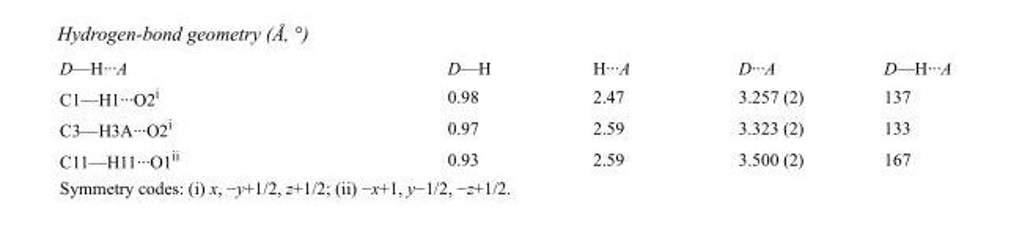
<table><tbody><tr><td>D—H···A</td><td>D—H</td><td>H···A</td><td>D···A</td><td>D—H···A</td></tr><tr><td>C1—H1···O2<sup>i</sup></td><td>0.98</td><td>2.47</td><td>3.257 (2)</td><td>137</td></tr><tr><td>C3—H3A···O2<sup>i</sup></td><td>0.97</td><td>2.59</td><td>3.323 (2)</td><td>133</td></tr><tr><td>C11—H11···O1<sup>ii</sup></td><td>0.93</td><td>2.59</td><td>3.500 (2)</td><td>167</td></tr></tbody></table>